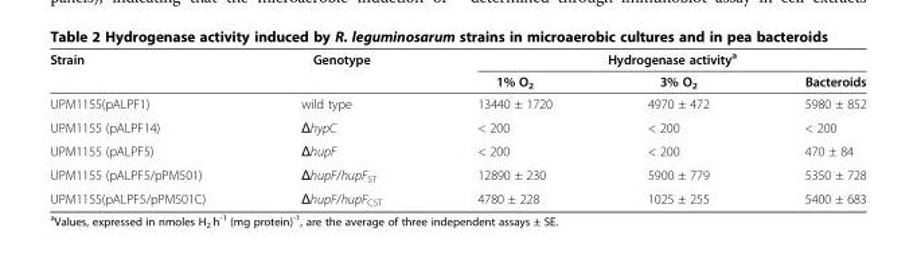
<table><thead><tr><td rowspan="2">Strain</td><td rowspan="2">Genotype</td><td colspan="3">Hydrogenase activity<sup>a</sup></td></tr><tr><td>1% O<sub>2</sub></td><td>3% O<sub>2</sub></td><td>Bacteroids</td></tr></thead><tbody><tr><td>UPM1155(pALPF1)</td><td>wild type</td><td>13440 ± 1720</td><td>4970 ± 472</td><td>5980 ± 852</td></tr><tr><td>UPM1155 (pALPF14)</td><td>ΔhypC</td><td>&lt; 200</td><td>&lt; 200</td><td>&lt; 200</td></tr><tr><td>UPM1155 (pALPF5)</td><td>ΔhupF</td><td>&lt; 200</td><td>&lt; 200</td><td>470 ± 84</td></tr><tr><td>UPM1155 (pALPF5/pPM501)</td><td>ΔhupF/hupF<sub>ST</sub></td><td>12890 ± 230</td><td>5900 ± 779</td><td>5350 ± 728</td></tr><tr><td>UPM1155(pALPF5/pPM501C)</td><td>ΔhupF/hupF<sub>CST</sub></td><td>4780 ± 228</td><td>1025 ± 255</td><td>5400 ± 683</td></tr></tbody></table>